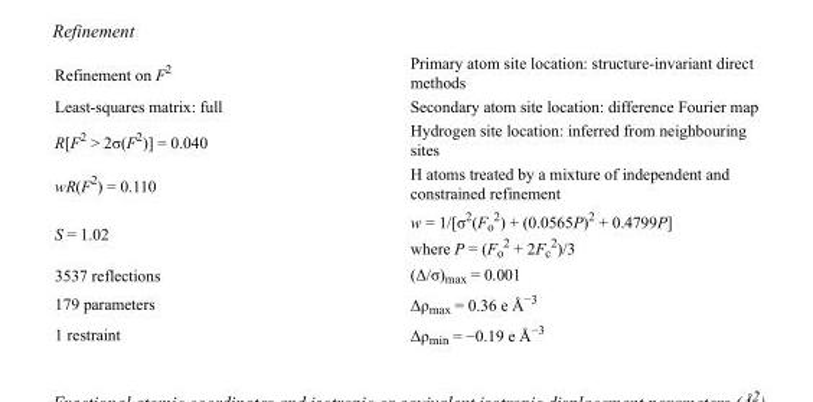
<table><tbody><tr><td>Refinement on F<sup>2</sup></td><td>Primary atom site location: structure-invariant direct methods</td></tr><tr><td>Least-squares matrix: full</td><td>Secondary atom site location: difference Fourier map</td></tr><tr><td>R[F<sup>2</sup> &gt; 2σ(F<sup>2</sup>)] = 0.040</td><td>Hydrogen site location: inferred from neighbouring sites</td></tr><tr><td>wR(F<sup>2</sup>) = 0.110</td><td>H atoms treated by a mixture of independent and constrained refinement</td></tr><tr><td>S = 1.02</td><td>w = 1/[σ<sup>2</sup>(F<sub>o</sub> <sup>2</sup>) + (0.0565P)<sup>2</sup> + 0.4799P] where P = (F<sub>o</sub> <sup>2</sup> + 2F<sub>c</sub> <sup>2</sup>)/3</td></tr><tr><td>3537 reflections</td><td>(Δ/σ)<sub>max</sub> = 0.001</td></tr><tr><td>179 parameters</td><td>Δρ<sub>max</sub> = 0.36 e Å<sup>−3</sup></td></tr><tr><td>1 restraint</td><td>Δρ<sub>min</sub> = −0.19 e Å<sup>−3</sup></td></tr></tbody></table>